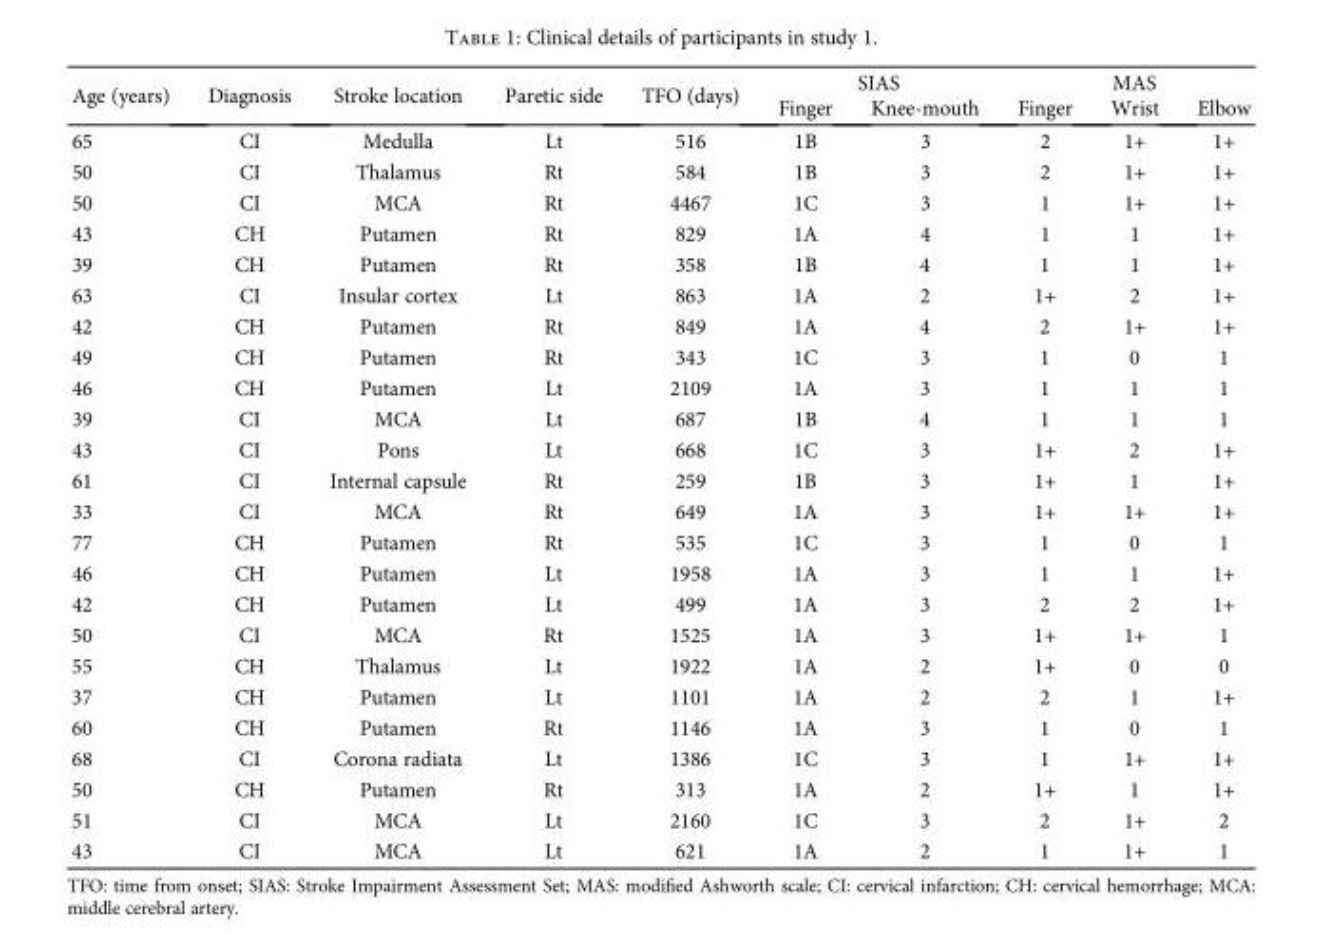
<table><thead><tr><td rowspan="2">Age (years)</td><td rowspan="2">Diagnosis</td><td rowspan="2">Stroke location</td><td rowspan="2">Paretic side</td><td rowspan="2">TFO (days)</td><td colspan="2">SIAS</td><td colspan="3">MAS</td></tr><tr><td>Finger</td><td>Knee-mouth</td><td>Finger</td><td>Wrist</td><td>Elbow</td></tr></thead><tbody><tr><td>65</td><td>CI</td><td>Medulla</td><td>Lt</td><td>516</td><td>1B</td><td>3</td><td>2</td><td>1+</td><td>1+</td></tr><tr><td>50</td><td>CI</td><td>Thalamus</td><td>Rt</td><td>584</td><td>1B</td><td>3</td><td>2</td><td>1+</td><td>1+</td></tr><tr><td>50</td><td>CI</td><td>MCA</td><td>Rt</td><td>4467</td><td>1C</td><td>3</td><td>1</td><td>1+</td><td>1+</td></tr><tr><td>43</td><td>CH</td><td>Putamen</td><td>Rt</td><td>829</td><td>1A</td><td>4</td><td>1</td><td>1</td><td>1+</td></tr><tr><td>39</td><td>CH</td><td>Putamen</td><td>Rt</td><td>358</td><td>1B</td><td>4</td><td>1</td><td>1</td><td>1+</td></tr><tr><td>63</td><td>CI</td><td>Insular cortex</td><td>Lt</td><td>863</td><td>1A</td><td>2</td><td>1+</td><td>2</td><td>1+</td></tr><tr><td>42</td><td>CH</td><td>Putamen</td><td>Rt</td><td>849</td><td>1A</td><td>4</td><td>2</td><td>1+</td><td>1+</td></tr><tr><td>49</td><td>CH</td><td>Putamen</td><td>Rt</td><td>343</td><td>1C</td><td>3</td><td>1</td><td>0</td><td>1</td></tr><tr><td>46</td><td>CH</td><td>Putamen</td><td>Lt</td><td>2109</td><td>1A</td><td>3</td><td>1</td><td>1</td><td>1</td></tr><tr><td>39</td><td>CI</td><td>MCA</td><td>Lt</td><td>687</td><td>1B</td><td>4</td><td>1</td><td>1</td><td>1</td></tr><tr><td>43</td><td>CI</td><td>Pons</td><td>Lt</td><td>668</td><td>1C</td><td>3</td><td>1+</td><td>2</td><td>1+</td></tr><tr><td>61</td><td>CI</td><td>Internal capsule</td><td>Rt</td><td>259</td><td>1B</td><td>3</td><td>1+</td><td>1</td><td>1+</td></tr><tr><td>33</td><td>CI</td><td>MCA</td><td>Rt</td><td>649</td><td>1A</td><td>3</td><td>1+</td><td>1+</td><td>1+</td></tr><tr><td>77</td><td>CH</td><td>Putamen</td><td>Rt</td><td>535</td><td>1C</td><td>3</td><td>1</td><td>0</td><td>1</td></tr><tr><td>46</td><td>CH</td><td>Putamen</td><td>Lt</td><td>1958</td><td>1A</td><td>3</td><td>1</td><td>1</td><td>1+</td></tr><tr><td>42</td><td>CH</td><td>Putamen</td><td>Lt</td><td>499</td><td>1A</td><td>3</td><td>2</td><td>2</td><td>1+</td></tr><tr><td>50</td><td>CI</td><td>MCA</td><td>Rt</td><td>1525</td><td>1A</td><td>3</td><td>1+</td><td>1+</td><td>1</td></tr><tr><td>55</td><td>CH</td><td>Thalamus</td><td>Lt</td><td>1922</td><td>1A</td><td>2</td><td>1+</td><td>0</td><td>0</td></tr><tr><td>37</td><td>CH</td><td>Putamen</td><td>Lt</td><td>1101</td><td>1A</td><td>2</td><td>2</td><td>1</td><td>1+</td></tr><tr><td>60</td><td>CH</td><td>Putamen</td><td>Rt</td><td>1146</td><td>1A</td><td>3</td><td>1</td><td>0</td><td>1</td></tr><tr><td>68</td><td>CI</td><td>Corona radiata</td><td>Lt</td><td>1386</td><td>1C</td><td>3</td><td>1</td><td>1+</td><td>1+</td></tr><tr><td>50</td><td>CH</td><td>Putamen</td><td>Rt</td><td>313</td><td>1A</td><td>2</td><td>1+</td><td>1</td><td>1+</td></tr><tr><td>51</td><td>CI</td><td>MCA</td><td>Lt</td><td>2160</td><td>1C</td><td>3</td><td>2</td><td>1+</td><td>2</td></tr><tr><td>43</td><td>CI</td><td>MCA</td><td>Lt</td><td>621</td><td>1A</td><td>2</td><td>1</td><td>1+</td><td>1</td></tr></tbody></table>